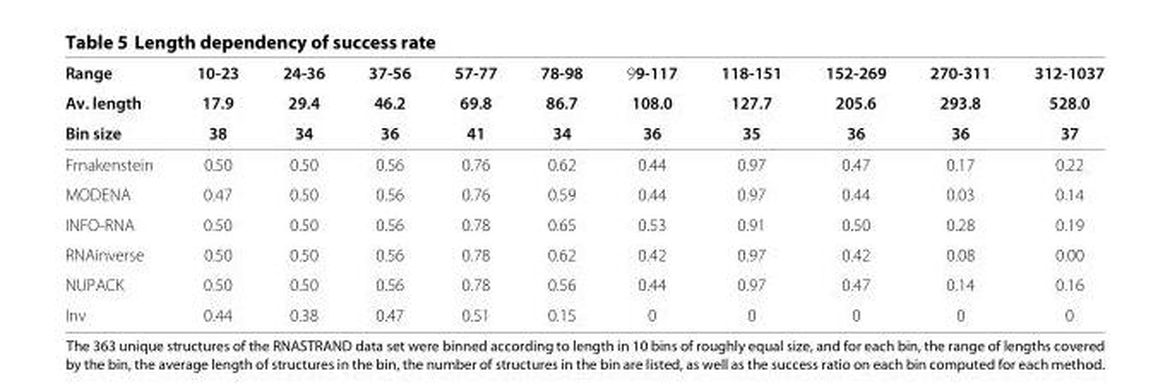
<table><thead><tr><td rowspan="3">Range Av. length Bin size</td><td rowspan="3">10-23 17.9 38</td><td rowspan="3">24-36 29.4 34</td><td rowspan="3">37-56 46.2 36</td><td rowspan="3">57-77 69.8 41</td><td rowspan="3">78-98 86.7 34</td><td rowspan="3">99-117 108.0 36</td><td rowspan="3">118-151 127.7 35</td><td rowspan="3">152-269 205.6 36</td><td rowspan="3">270-311 293.8 36</td><td rowspan="3">312-1037 528.0 37</td></tr><tr></tr><tr></tr></thead><tbody><tr><td>Frnakenstein</td><td>0.50</td><td>0.50</td><td>0.56</td><td>0.76</td><td>0.62</td><td>0.44</td><td>0.97</td><td>0.47</td><td>0.17</td><td>0.22</td></tr><tr><td>MODENA</td><td>0.47</td><td>0.50</td><td>0.56</td><td>0.76</td><td>0.59</td><td>0.44</td><td>0.97</td><td>0.44</td><td>0.03</td><td>0.14</td></tr><tr><td>INFO-RNA</td><td>0.50</td><td>0.50</td><td>0.56</td><td>0.78</td><td>0.65</td><td>0.53</td><td>0.91</td><td>0.50</td><td>0.28</td><td>0.19</td></tr><tr><td>RNAinverse</td><td>0.50</td><td>0.50</td><td>0.56</td><td>0.78</td><td>0.62</td><td>0.42</td><td>0.97</td><td>0.42</td><td>0.08</td><td>0.00</td></tr><tr><td>NUPACK</td><td>0.50</td><td>0.50</td><td>0.56</td><td>0.78</td><td>0.56</td><td>0.44</td><td>0.97</td><td>0.47</td><td>0.14</td><td>0.16</td></tr><tr><td>Inv</td><td>0.44</td><td>0.38</td><td>0.47</td><td>0.51</td><td>0.15</td><td>0</td><td>0</td><td>0</td><td>0</td><td>0</td></tr></tbody></table>